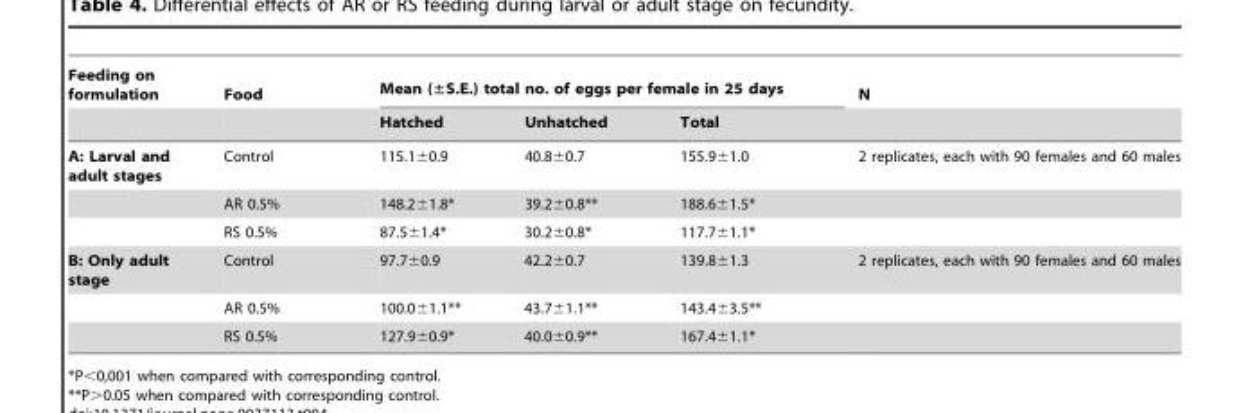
<table><thead><tr><td rowspan="2">Feeding on formulation</td><td rowspan="2">Food</td><td colspan="3">Mean (±S.E.) total no. of eggs per female in 25 days</td><td rowspan="2">N</td></tr><tr><td>Hatched</td><td>Unhatched</td><td>Total</td></tr></thead><tbody><tr><td rowspan="3">A: Larval and adult stages</td><td>Control</td><td>115.1±0.9</td><td>40.8±0.7</td><td>155.9±1.0</td><td>2 replicates, each with 90 females and 60 males</td></tr><tr><td>AR 0.5%</td><td>148.2±1.8*</td><td>39.2±0.8**</td><td>188.6±1.5*</td><td></td></tr><tr><td>RS 0.5%</td><td>87.5±1.4*</td><td>30.2±0.8*</td><td>117.7±1.1*</td><td></td></tr><tr><td rowspan="3">B: Only adult stage</td><td>Control</td><td>97.7±0.9</td><td>42.2±0.7</td><td>139.8±1.3</td><td>2 replicates, each with 90 females and 60 males</td></tr><tr><td>AR 0.5%</td><td>100.0±1.1**</td><td>43.7±1.1**</td><td>143.4±3.5**</td><td></td></tr><tr><td>RS 0.5%</td><td>127.9±0.9*</td><td>40.0±0.9**</td><td>167.4±1.1*</td><td></td></tr></tbody></table>